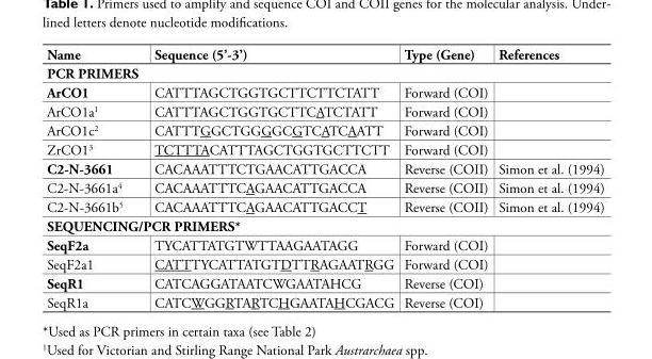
<table><thead><tr><td>Name</td><td>Sequence (5’-3’)</td><td>Type (Gene)</td><td>References</td></tr></thead><tbody><tr><td colspan="4">PCR PRIMERS</td></tr><tr><td>ArCO1</td><td>CATTTAGCTGGTGCTTCTTCTATT</td><td>Forward (COI)</td><td></td></tr><tr><td>ArCO1a1</td><td>CATTTAGCTGGTGCTTCATCTATT</td><td>Forward (COI)</td><td></td></tr><tr><td>ArCO1c2</td><td>CATTTGGCTGGGGCGTCATCAATT</td><td>Forward (COI)</td><td></td></tr><tr><td>ZrCO13</td><td>TCTTTACATTTAGCTGGTGCTTCTT</td><td>Forward (COI)</td><td></td></tr><tr><td>C2-N-3661</td><td>CACAAATTTCTGAACATTGACCA</td><td>Reverse (COII)</td><td>Simon et al. (1994)</td></tr><tr><td>C2-N-3661a4</td><td>CACAAATTTCAGAACATTGACCA</td><td>Reverse (COII)</td><td>Simon et al. (1994)</td></tr><tr><td>C2-N-3661b5</td><td>CACAAATTTCAGAACATTGACCT</td><td>Reverse (COII)</td><td>Simon et al. (1994)</td></tr><tr><td colspan="4">SEQUENCING/PCR PRIMERS*</td></tr><tr><td>SeqF2a</td><td>TYCATTATGTWTTAAGAATAGG</td><td>Forward (COI)</td><td></td></tr><tr><td>SeqF2a1</td><td>CATTTYCATTATGTDTTRAGAATRGG</td><td>Forward (COI)</td><td></td></tr><tr><td>SeqR1</td><td>CATCAGGATAATCWGAATAHCG</td><td>Reverse (COI)</td><td></td></tr><tr><td>SeqR1a</td><td>CATCWGGRTARTCHGAATAHCGACG</td><td>Reverse (COI)</td><td></td></tr></tbody></table>